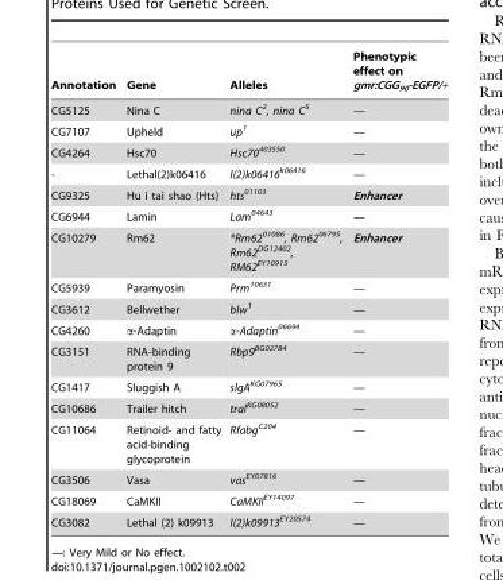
<table><thead><tr><td>Annotation</td><td>Gene</td><td>Alleles</td><td>Phenotypic effect on gmr:CGG<sub>90</sub>-EGFP/+</td></tr></thead><tbody><tr><td>CG5125</td><td>Nina C</td><td>nina C<sup>2</sup>, nina C<sup>5</sup></td><td>—</td></tr><tr><td>CG7107</td><td>Upheld</td><td>up<sup>1</sup></td><td>—</td></tr><tr><td>CG4264</td><td>Hsc70</td><td>Hsc70<sup>403550</sup></td><td>—</td></tr><tr><td>-</td><td>Lethal(2)k06416</td><td>l(2)k06416<sup>k06416</sup></td><td>—</td></tr><tr><td>CG9325</td><td>Hu i tai shao (Hts)</td><td>hts<sup>01103</sup></td><td>Enhancer</td></tr><tr><td>CG6944</td><td>Lamin</td><td>Lam<sup>04643</sup></td><td>—</td></tr><tr><td>CG10279</td><td>Rm62</td><td>*Rm62<sup>01086</sup>, Rm62<sup>06795</sup>, Rm62<sup>DG12402</sup>, RM62<sup>EY10915</sup></td><td>Enhancer</td></tr><tr><td>CG5939</td><td>Paramyosin</td><td>Prm<sup>10631</sup></td><td>—</td></tr><tr><td>CG3612</td><td>Bellwether</td><td>blw<sup>1</sup></td><td>—</td></tr><tr><td>CG4260</td><td>α-Adaptin</td><td>α-Adaptin<sup>06694</sup></td><td>—</td></tr><tr><td>CG3151</td><td>RNA-binding protein 9</td><td>Rbp9<sup>BG02784</sup></td><td>—</td></tr><tr><td>CG1417</td><td>Sluggish A</td><td>slgA<sup>KG07965</sup></td><td>—</td></tr><tr><td>CG10686</td><td>Trailer hitch</td><td>tral<sup>KG08052</sup></td><td>—</td></tr><tr><td>CG11064</td><td>Retinoid- and fatty acid-binding glycoprotein</td><td>Rfabg<sup>C204</sup></td><td>—</td></tr><tr><td>CG3506</td><td>Vasa</td><td>vas<sup>EY07816</sup></td><td>—</td></tr><tr><td>CG18069</td><td>CaMKII</td><td>CaMKII<sup>EY14097</sup></td><td>—</td></tr><tr><td>CG3082</td><td>Lethal (2) k09913</td><td>l(2)k09913<sup>EY20574</sup></td><td>—</td></tr></tbody></table>